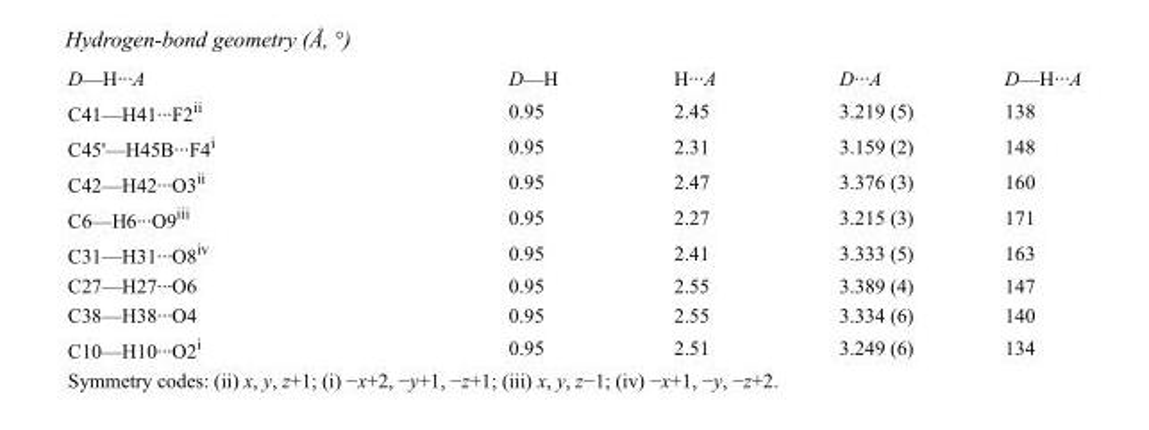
<table><tbody><tr><td>D—H···A</td><td>D—H</td><td>H···A</td><td>D···A</td><td>D—H···A</td></tr><tr><td>C41—H41···F2<sup>ii</sup></td><td>0.95</td><td>2.45</td><td>3.219 (5)</td><td>138</td></tr><tr><td>C45&#x27;—H45B···F4<sup>i</sup></td><td>0.95</td><td>2.31</td><td>3.159 (2)</td><td>148</td></tr><tr><td>C42—H42···O3<sup>ii</sup></td><td>0.95</td><td>2.47</td><td>3.376 (3)</td><td>160</td></tr><tr><td>C6—H6···O9<sup>iii</sup></td><td>0.95</td><td>2.27</td><td>3.215 (3)</td><td>171</td></tr><tr><td>C31—H31···O8<sup>iv</sup></td><td>0.95</td><td>2.41</td><td>3.333 (5)</td><td>163</td></tr><tr><td>C27—H27···O6</td><td>0.95</td><td>2.55</td><td>3.389 (4)</td><td>147</td></tr><tr><td>C38—H38···O4</td><td>0.95</td><td>2.55</td><td>3.334 (6)</td><td>140</td></tr><tr><td>C10—H10···O2<sup>i</sup></td><td>0.95</td><td>2.51</td><td>3.249 (6)</td><td>134</td></tr></tbody></table>